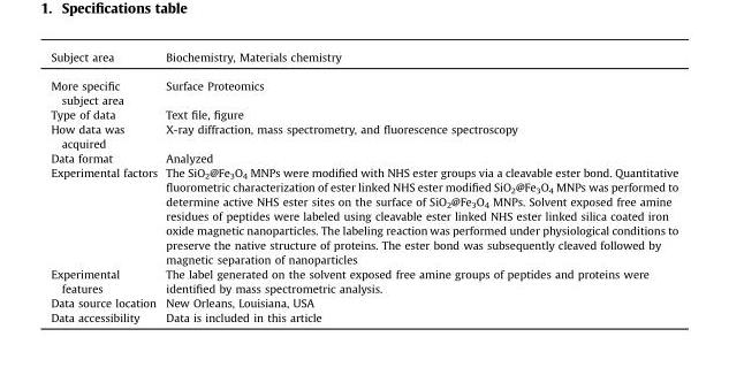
<table><tbody><tr><td>Subject area</td><td>Biochemistry, Materials chemistry</td></tr><tr><td>More specific subject area</td><td>Surface Proteomics</td></tr><tr><td>Type of data</td><td>Text file, figure</td></tr><tr><td>How data was acquired</td><td>X-ray diffraction, mass spectrometry, and fluorescence spectroscopy</td></tr><tr><td>Data format</td><td>Analyzed</td></tr><tr><td>Experimental factors</td><td>The SiO<sub>2</sub>@Fe<sub>3</sub>O<sub>4</sub> MNPs were modified with NHS ester groups via a cleavable ester bond. Quantitative fluorometric characterization of ester linked NHS ester modified SiO<sub>2</sub>@Fe<sub>3</sub>O<sub>4</sub> MNPs was performed to determine active NHS ester sites on the surface of SiO<sub>2</sub>@Fe<sub>3</sub>O<sub>4</sub> MNPs. Solvent exposed free amine residues of peptides were labeled using cleavable ester linked NHS ester linked silica coated iron oxide magnetic nanoparticles. The labeling reaction was performed under physiological conditions to preserve the native structure of proteins. The ester bond was subsequently cleaved followed by magnetic separation of nanoparticles</td></tr><tr><td>Experimental features</td><td>The label generated on the solvent exposed free amine groups of peptides and proteins were identified by mass spectrometric analysis.</td></tr><tr><td>Data source location</td><td>New Orleans, Louisiana, USA</td></tr><tr><td>Data accessibility</td><td>Data is included in this article</td></tr></tbody></table>